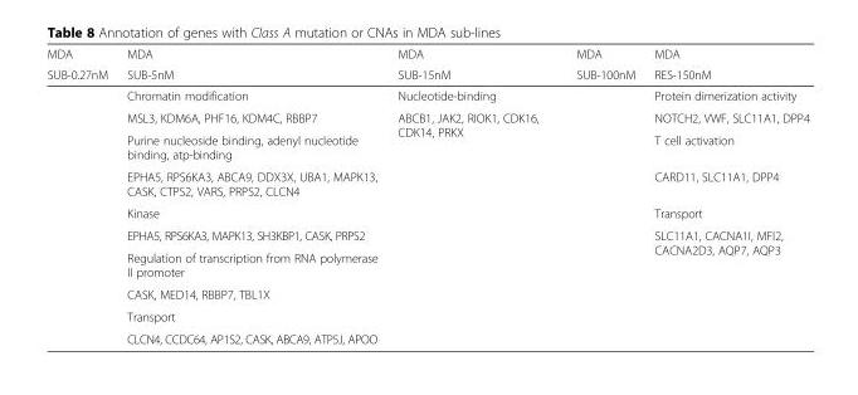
<table><thead><tr><td rowspan="2">MDA SUB-0.27nM</td><td rowspan="2">MDA SUB-5nM</td><td rowspan="2">MDA SUB-15nM</td><td rowspan="2">MDA SUB-100nM</td><td rowspan="2">MDA RES-150nM</td></tr><tr></tr></thead><tbody><tr><td rowspan="10"></td><td>Chromatin modification</td><td>Nucleotide-binding</td><td rowspan="10"></td><td>Protein dimerization activity</td></tr><tr><td>MSL3, KDM6A, PHF16, KDM4C, RBBP7</td><td rowspan="9">ABCB1, JAK2, RIOK1, CDK16, CDK14, PRKX</td><td>NOTCH2, VWF, SLC11A1, DPP4</td></tr><tr><td>Purine nucleoside binding, adenyl nucleotide binding, atp-binding</td><td>T cell activation</td></tr><tr><td>EPHA5, RPS6KA3, ABCA9, DDX3X, UBA1, MAPK13, CASK, CTPS2, VARS, PRPS2, CLCN4</td><td>CARD11, SLC11A1, DPP4</td></tr><tr><td>Kinase</td><td>Transport</td></tr><tr><td>EPHA5, RPS6KA3, MAPK13, SH3KBP1, CASK, PRPS2</td><td rowspan="5">SLC11A1, CACNA1I, MFI2, CACNA2D3, AQP7, AQP3</td></tr><tr><td>Regulation of transcription from RNA polymerase II promoter</td></tr><tr><td>CASK, MED14, RBBP7, TBL1X</td></tr><tr><td>Transport</td></tr><tr><td>CLCN4, CCDC64, AP1S2, CASK, ABCA9, ATP5J, APOO</td></tr></tbody></table>